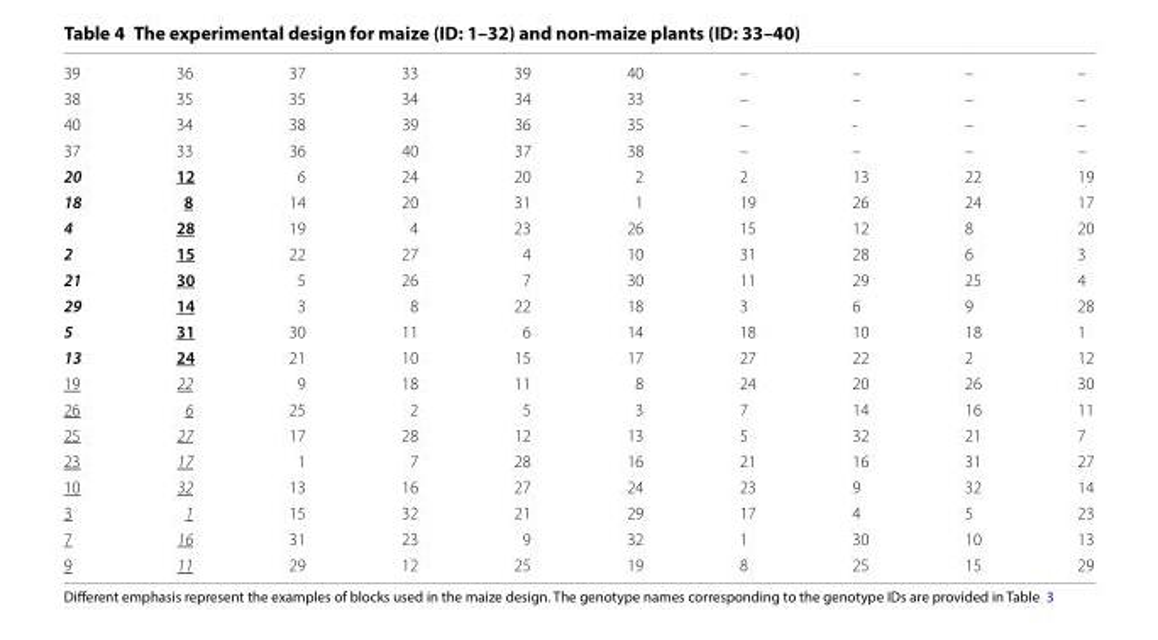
<table><tbody><tr><td>39</td><td>36</td><td>37</td><td>33</td><td>39</td><td>40</td><td>–</td><td>–</td><td>–</td><td>–</td></tr><tr><td>38</td><td>35</td><td>35</td><td>34</td><td>34</td><td>33</td><td>–</td><td>–</td><td>–</td><td>–</td></tr><tr><td>40</td><td>34</td><td>38</td><td>39</td><td>36</td><td>35</td><td>–</td><td>-</td><td>–</td><td>–</td></tr><tr><td>37</td><td>33</td><td>36</td><td>40</td><td>37</td><td>38</td><td>–</td><td>–</td><td>–</td><td>–</td></tr><tr><td>20</td><td>12</td><td>6</td><td>24</td><td>20</td><td>2</td><td>2</td><td>13</td><td>22</td><td>19</td></tr><tr><td>18</td><td>8</td><td>14</td><td>20</td><td>31</td><td>1</td><td>19</td><td>26</td><td>24</td><td>17</td></tr><tr><td>4</td><td>28</td><td>19</td><td>4</td><td>23</td><td>26</td><td>15</td><td>12</td><td>8</td><td>20</td></tr><tr><td>2</td><td>15</td><td>22</td><td>27</td><td>4</td><td>10</td><td>31</td><td>28</td><td>6</td><td>3</td></tr><tr><td>21</td><td>30</td><td>5</td><td>26</td><td>7</td><td>30</td><td>11</td><td>29</td><td>25</td><td>4</td></tr><tr><td>29</td><td>14</td><td>3</td><td>8</td><td>22</td><td>18</td><td>3</td><td>6</td><td>9</td><td>28</td></tr><tr><td>5</td><td>31</td><td>30</td><td>11</td><td>6</td><td>14</td><td>18</td><td>10</td><td>18</td><td>1</td></tr><tr><td>13</td><td>24</td><td>21</td><td>10</td><td>15</td><td>17</td><td>27</td><td>22</td><td>2</td><td>12</td></tr><tr><td>19</td><td>22</td><td>9</td><td>18</td><td>11</td><td>8</td><td>24</td><td>20</td><td>26</td><td>30</td></tr><tr><td>26</td><td>6</td><td>25</td><td>2</td><td>5</td><td>3</td><td>7</td><td>14</td><td>16</td><td>11</td></tr><tr><td>25</td><td>27</td><td>17</td><td>28</td><td>12</td><td>13</td><td>5</td><td>32</td><td>21</td><td>7</td></tr><tr><td>23</td><td>17</td><td>1</td><td>7</td><td>28</td><td>16</td><td>21</td><td>16</td><td>31</td><td>27</td></tr><tr><td>10</td><td>32</td><td>13</td><td>16</td><td>27</td><td>24</td><td>23</td><td>9</td><td>32</td><td>14</td></tr><tr><td>3</td><td>1</td><td>15</td><td>32</td><td>21</td><td>29</td><td>17</td><td>4</td><td>5</td><td>23</td></tr><tr><td>7</td><td>16</td><td>31</td><td>23</td><td>9</td><td>32</td><td>1</td><td>30</td><td>10</td><td>13</td></tr><tr><td>9</td><td>11</td><td>29</td><td>12</td><td>25</td><td>19</td><td>8</td><td>25</td><td>15</td><td>29</td></tr></tbody></table>